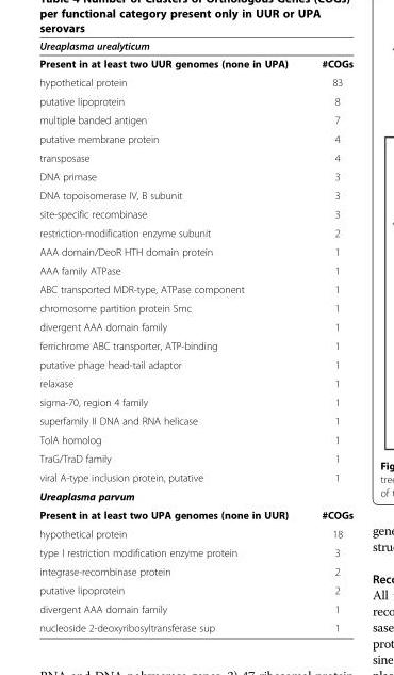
<table><thead><tr><td>Ureaplasma urealyticum</td><td></td></tr></thead><tbody><tr><td>Present in at least two UUR genomes (none in UPA)</td><td>#COGs</td></tr><tr><td>hypothetical protein</td><td>83</td></tr><tr><td>putative lipoprotein</td><td>8</td></tr><tr><td>multiple banded antigen</td><td>7</td></tr><tr><td>putative membrane protein</td><td>4</td></tr><tr><td>transposase</td><td>4</td></tr><tr><td>DNA primase</td><td>3</td></tr><tr><td>DNA topoisomerase IV, B subunit</td><td>3</td></tr><tr><td>site-specific recombinase</td><td>3</td></tr><tr><td>restriction-modification enzyme subunit</td><td>2</td></tr><tr><td>AAA domain/DeoR HTH domain protein</td><td>1</td></tr><tr><td>AAA family ATPase</td><td>1</td></tr><tr><td>ABC transported MDR-type, ATPase component</td><td>1</td></tr><tr><td>chromosome partition protein Smc</td><td>1</td></tr><tr><td>divergent AAA domain family</td><td>1</td></tr><tr><td>ferrichrome ABC transporter, ATP-binding</td><td>1</td></tr><tr><td>putative phage head-tail adaptor</td><td>1</td></tr><tr><td>relaxase</td><td>1</td></tr><tr><td>sigma-70, region 4 family</td><td>1</td></tr><tr><td>superfamily II DNA and RNA helicase</td><td>1</td></tr><tr><td>TolA homolog</td><td>1</td></tr><tr><td>TraG/TraD family</td><td>1</td></tr><tr><td>viral A-type inclusion protein, putative</td><td>1</td></tr><tr><td colspan="2">Ureaplasma parvum</td></tr><tr><td>Present in at least two UPA genomes (none in UUR)</td><td>#COGs</td></tr><tr><td>hypothetical protein</td><td>18</td></tr><tr><td>type I restriction modification enzyme protein</td><td>3</td></tr><tr><td>integrase-recombinase protein</td><td>2</td></tr><tr><td>putative lipoprotein</td><td>2</td></tr><tr><td>divergent AAA domain family</td><td>1</td></tr><tr><td>nucleoside 2-deoxyribosyltransferase sup</td><td>1</td></tr></tbody></table>